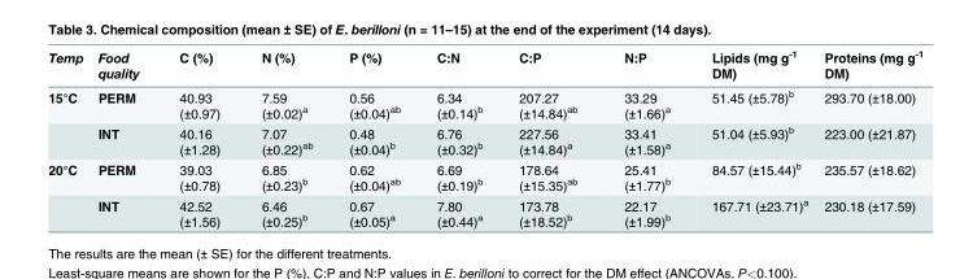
<table><thead><tr><td>Temp</td><td>Food quality</td><td>C (%)</td><td>N (%)</td><td>P (%)</td><td>C:N</td><td>C:P</td><td>N:P</td><td>Lipids (mg g<sup>-1</sup> DM)</td><td>Proteins (mg g<sup>-1</sup> DM)</td></tr></thead><tbody><tr><td rowspan="2">15°C</td><td>PERM</td><td>40.93 (±0.97)</td><td>7.59 (±0.02)<sup>a</sup></td><td>0.56 (±0.04)<sup>ab</sup></td><td>6.34 (±0.14)<sup>b</sup></td><td>207.27 (±14.84)<sup>ab</sup></td><td>33.29 (±1.66)<sup>a</sup></td><td>51.45 (±5.78)<sup>b</sup></td><td>293.70 (±18.00)</td></tr><tr><td>INT</td><td>40.16 (±1.28)</td><td>7.07 (±0.22)<sup>ab</sup></td><td>0.48 (±0.04)<sup>b</sup></td><td>6.76 (±0.32)<sup>b</sup></td><td>227.56 (±14.84)<sup>a</sup></td><td>33.41 (±1.58)<sup>a</sup></td><td>51.04 (±5.93)<sup>b</sup></td><td>223.00 (±21.87)</td></tr><tr><td rowspan="2">20°C</td><td>PERM</td><td>39.03 (±0.78)</td><td>6.85 (±0.23)<sup>b</sup></td><td>0.62 (±0.04)<sup>ab</sup></td><td>6.69 (±0.19)<sup>b</sup></td><td>178.64 (±15.35)<sup>ab</sup></td><td>25.41 (±1.77)<sup>b</sup></td><td>84.57 (±15.44)<sup>b</sup></td><td>235.57 (±18.62)</td></tr><tr><td>INT</td><td>42.52 (±1.56)</td><td>6.46 (±0.25)<sup>b</sup></td><td>0.67 (±0.05)<sup>a</sup></td><td>7.80 (±0.44)<sup>a</sup></td><td>173.78 (±18.52)<sup>b</sup></td><td>22.17 (±1.99)<sup>b</sup></td><td>167.71 (±23.71)<sup>a</sup></td><td>230.18 (±17.59)</td></tr></tbody></table>